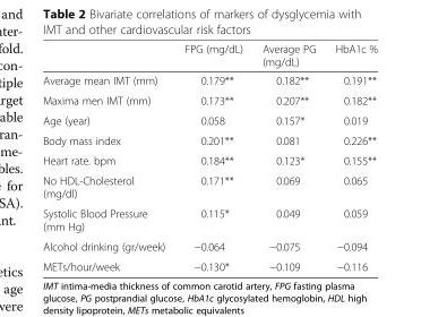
<table><thead><tr><td></td><td>FPG (mg/dL)</td><td>Average PG (mg/dL)</td><td>HbA1c %</td></tr></thead><tbody><tr><td>Average mean IMT (mm)</td><td>0.179**</td><td>0.182**</td><td>0.191**</td></tr><tr><td>Maxima men IMT (mm)</td><td>0.173**</td><td>0.207**</td><td>0.182**</td></tr><tr><td>Age (year)</td><td>0.058</td><td>0.157*</td><td>0.019</td></tr><tr><td>Body mass index</td><td>0.201**</td><td>0.081</td><td>0.226**</td></tr><tr><td>Heart rate. bpm</td><td>0.184**</td><td>0.123*</td><td>0.155**</td></tr><tr><td>No HDL-Cholesterol (mg/dl)</td><td>0.171**</td><td>0.069</td><td>0.065</td></tr><tr><td>Systolic Blood Pressure (mm Hg)</td><td>0.115*</td><td>0.049</td><td>0.059</td></tr><tr><td>Alcohol drinking (gr/week)</td><td>−0.064</td><td>−0.075</td><td>−0.094</td></tr><tr><td>METs/hour/week</td><td>−0.130*</td><td>−0.109</td><td>−0.116</td></tr></tbody></table>